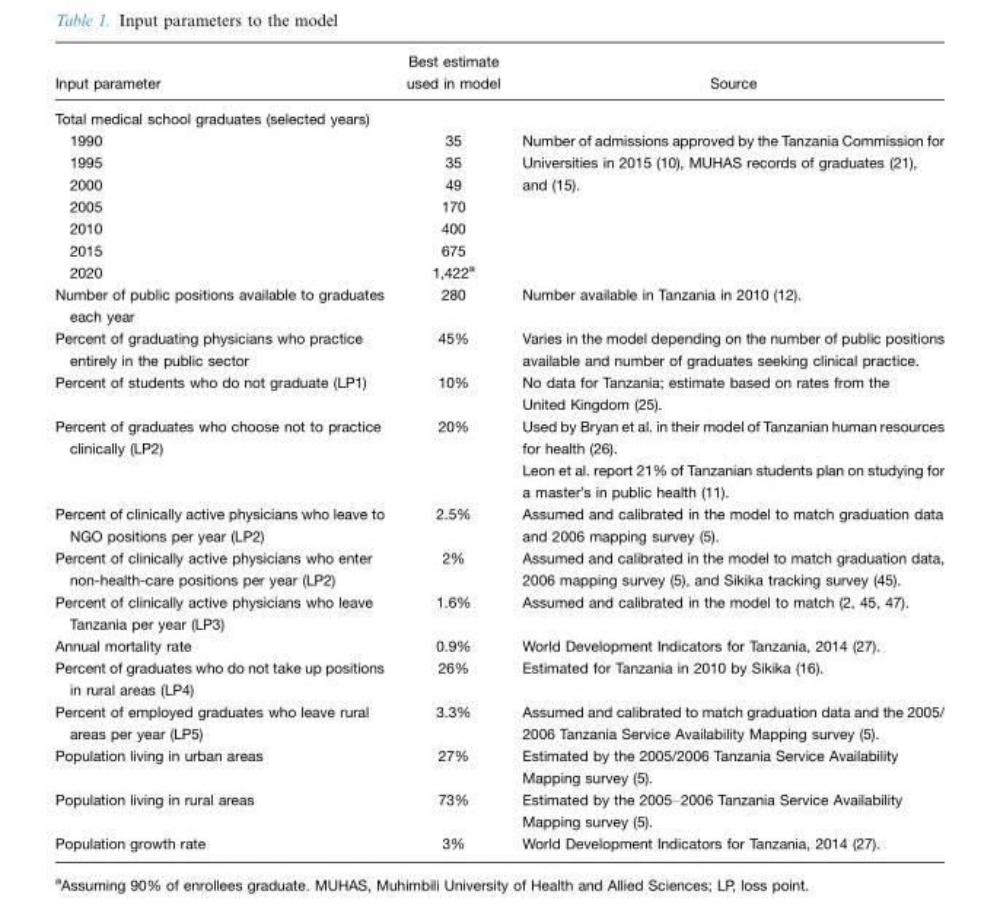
<table><thead><tr><td>Input parameter</td><td>Best estimate used in model</td><td>Source</td></tr></thead><tbody><tr><td colspan="3">Total medical school graduates (selected years)</td></tr><tr><td>1990</td><td>35</td><td>Number of admissions approved by the Tanzania Commission for</td></tr><tr><td>1995</td><td>35</td><td>Universities in 2015 (10), MUHAS records of graduates (21),</td></tr><tr><td>2000</td><td>49</td><td>and (15).</td></tr><tr><td>2005</td><td>170</td><td></td></tr><tr><td>2010</td><td>400</td><td></td></tr><tr><td>2015</td><td>675</td><td></td></tr><tr><td>2020</td><td>1,422<sup>a</sup></td><td></td></tr><tr><td>Number of public positions available to graduates each year</td><td>280</td><td>Number available in Tanzania in 2010 (12).</td></tr><tr><td>Percent of graduating physicians who practice entirely in the public sector</td><td>45%</td><td>Varies in the model depending on the number of public positions available and number of graduates seeking clinical practice.</td></tr><tr><td>Percent of students who do not graduate (LP1)</td><td>10%</td><td>No data for Tanzania; estimate based on rates from the United Kingdom (25).</td></tr><tr><td>Percent of graduates who choose not to practice clinically (LP2)</td><td>20%</td><td>Used by Bryan et al. in their model of Tanzanian human resources for health (26). Leon et al. report 21% of Tanzanian students plan on studying for a master’s in public health (11).</td></tr><tr><td>Percent of clinically active physicians who leave to NGO positions per year (LP2)</td><td>2.5%</td><td>Assumed and calibrated in the model to match graduation data and 2006 mapping survey (5).</td></tr><tr><td>Percent of clinically active physicians who enter non-health-care positions per year (LP2)</td><td>2%</td><td>Assumed and calibrated in the model to match graduation data, 2006 mapping survey (5), and Sikika tracking survey (45).</td></tr><tr><td>Percent of clinically active physicians who leave Tanzania per year (LP3)</td><td>1.6%</td><td>Assumed and calibrated in the model to match (2, 45, 47).</td></tr><tr><td>Annual mortality rate</td><td>0.9%</td><td>World Development Indicators for Tanzania, 2014 (27).</td></tr><tr><td>Percent of graduates who do not take up positions in rural areas (LP4)</td><td>26%</td><td>Estimated for Tanzania in 2010 by Sikika (16).</td></tr><tr><td>Percent of employed graduates who leave rural areas per year (LP5)</td><td>3.3%</td><td>Assumed and calibrated to match graduation data and the 2005/ 2006 Tanzania Service Availability Mapping survey (5).</td></tr><tr><td>Population living in urban areas</td><td>27%</td><td>Estimated by the 2005/2006 Tanzania Service Availability Mapping survey (5).</td></tr><tr><td>Population living in rural areas</td><td>73%</td><td>Estimated by the 2005–2006 Tanzania Service Availability Mapping survey (5).</td></tr><tr><td>Population growth rate</td><td>3%</td><td>World Development Indicators for Tanzania, 2014 (27).</td></tr></tbody></table>